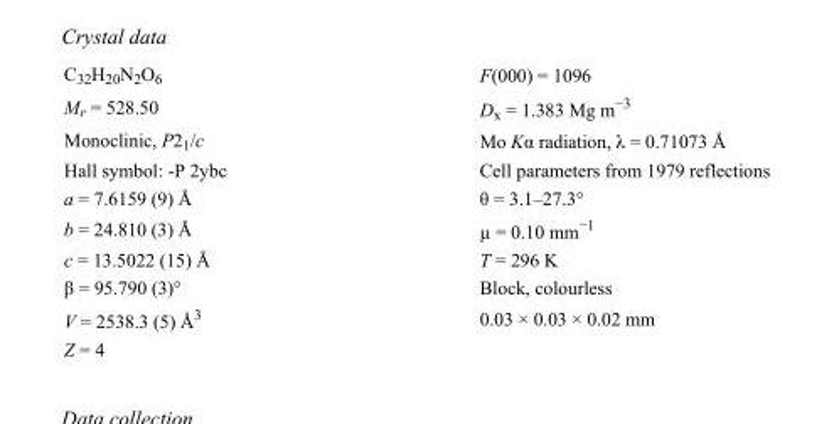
<table><tbody><tr><td>C<sub>32</sub>H<sub>20</sub>N<sub>2</sub>O<sub>6</sub></td><td>F(000) = 1096</td></tr><tr><td>M<sub>r</sub> = 528.50</td><td>D<sub>x</sub> = 1.383 Mg m<sup>−3</sup></td></tr><tr><td>Monoclinic, P2<sub>1</sub>/c</td><td>Mo Kα radiation, λ = 0.71073 Å</td></tr><tr><td>Hall symbol: -P 2ybc</td><td>Cell parameters from 1979 reflections</td></tr><tr><td>a = 7.6159 (9) Å</td><td>θ = 3.1–27.3°</td></tr><tr><td>b = 24.810 (3) Å</td><td>µ = 0.10 mm<sup>−1</sup></td></tr><tr><td>c = 13.5022 (15) Å</td><td>T = 296 K</td></tr><tr><td>β = 95.790 (3)°</td><td>Block, colourless</td></tr><tr><td>V = 2538.3 (5) Å<sup>3</sup></td><td>0.03 × 0.03 × 0.02 mm</td></tr><tr><td>Z = 4</td><td></td></tr></tbody></table>